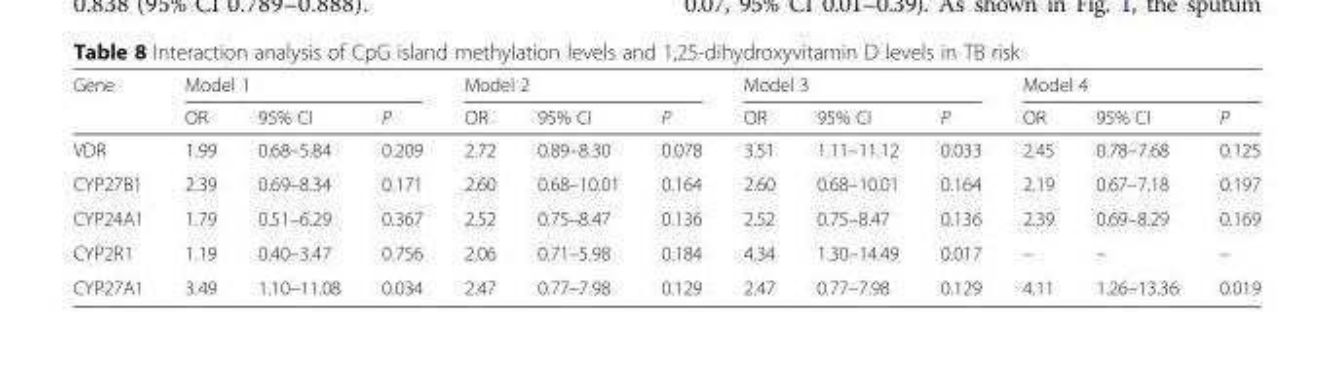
<table><thead><tr><td rowspan="2">Gene</td><td colspan="3">Model 1</td><td colspan="3">Model 2</td><td colspan="3">Model 3</td><td colspan="3">Model 4</td></tr><tr><td>OR</td><td>95% CI</td><td>P</td><td>OR</td><td>95% CI</td><td>P</td><td>OR</td><td>95% CI</td><td>P</td><td>OR</td><td>95% CI</td><td>P</td></tr></thead><tbody><tr><td>VDR</td><td>1.99</td><td>0.68–5.84</td><td>0.209</td><td>2.72</td><td>0.89–8.30</td><td>0.078</td><td>3.51</td><td>1.11–11.12</td><td>0.033</td><td>2.45</td><td>0.78–7.68</td><td>0.125</td></tr><tr><td>CYP27B1</td><td>2.39</td><td>0.69–8.34</td><td>0.171</td><td>2.60</td><td>0.68–10.01</td><td>0.164</td><td>2.60</td><td>0.68–10.01</td><td>0.164</td><td>2.19</td><td>0.67–7.18</td><td>0.197</td></tr><tr><td>CYP24A1</td><td>1.79</td><td>0.51–6.29</td><td>0.367</td><td>2.52</td><td>0.75–8.47</td><td>0.136</td><td>2.52</td><td>0.75–8.47</td><td>0.136</td><td>2.39</td><td>0.69–8.29</td><td>0.169</td></tr><tr><td>CYP2R1</td><td>1.19</td><td>0.40–3.47</td><td>0.756</td><td>2.06</td><td>0.71–5.98</td><td>0.184</td><td>4.34</td><td>1.30–14.49</td><td>0.017</td><td>–</td><td>–</td><td>–</td></tr><tr><td>CYP27A1</td><td>3.49</td><td>1.10–11.08</td><td>0.034</td><td>2.47</td><td>0.77–7.98</td><td>0.129</td><td>2.47</td><td>0.77–7.98</td><td>0.129</td><td>4.11</td><td>1.26–13.36</td><td>0.019</td></tr></tbody></table>